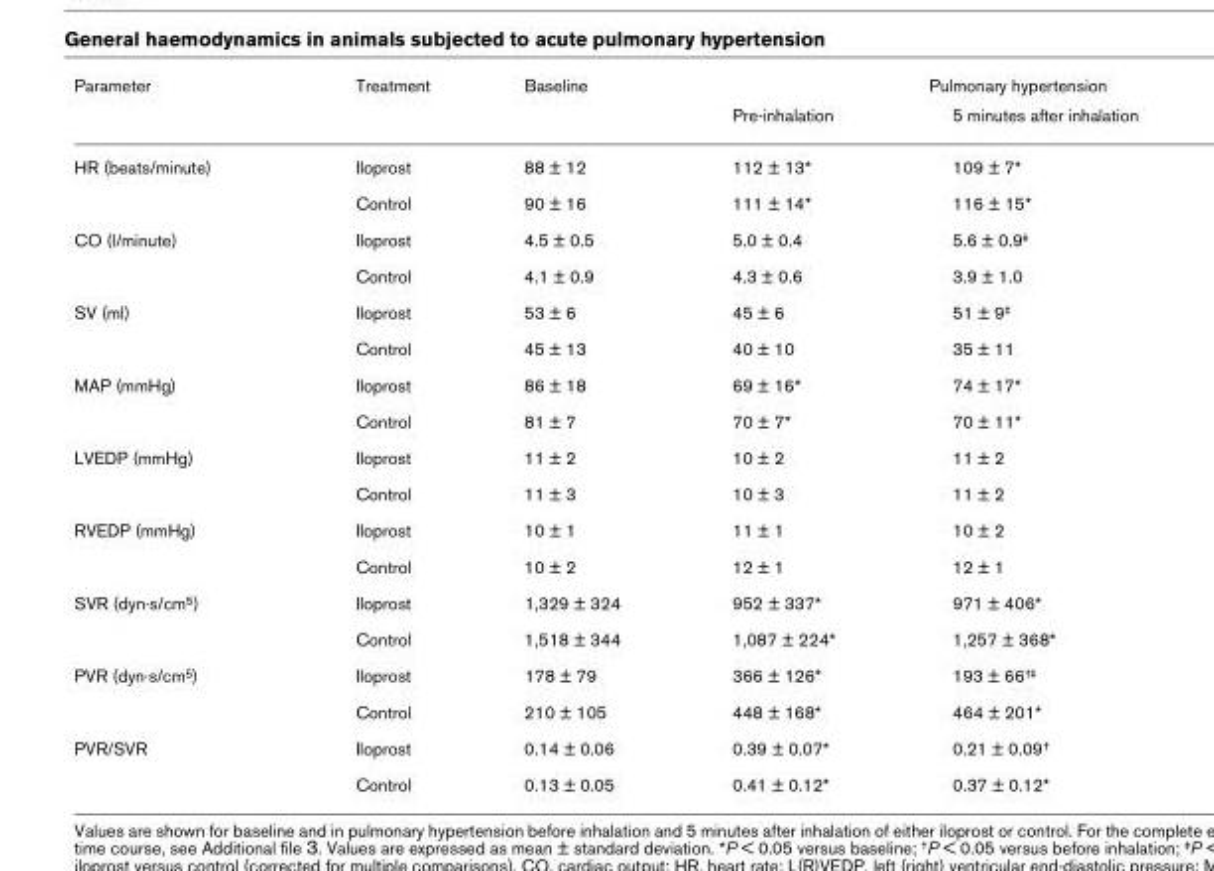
<table><thead><tr><td rowspan="2">Parameter</td><td rowspan="2">Treatment</td><td rowspan="2">Baseline</td><td colspan="2">Pulmonary hypertension</td></tr><tr><td>Pre-inhalation</td><td>5 minutes after inhalation</td></tr></thead><tbody><tr><td rowspan="2">HR (beats/minute)</td><td>Iloprost</td><td>88 ± 12</td><td>112 ± 13*</td><td>109 ± 7*</td></tr><tr><td>Control</td><td>90 ± 16</td><td>111 ± 14*</td><td>116 ± 15*</td></tr><tr><td rowspan="2">CO (l/minute)</td><td>Iloprost</td><td>4.5 ± 0.5</td><td>5.0 ± 0.4</td><td>5.6 ± 0.9<sup>‡</sup></td></tr><tr><td>Control</td><td>4.1 ± 0.9</td><td>4.3 ± 0.6</td><td>3.9 ± 1.0</td></tr><tr><td rowspan="2">SV (ml)</td><td>Iloprost</td><td>53 ± 6</td><td>45 ± 6</td><td>51 ± 9<sup>‡</sup></td></tr><tr><td>Control</td><td>45 ± 13</td><td>40 ± 10</td><td>35 ± 11</td></tr><tr><td rowspan="2">MAP (mmHg)</td><td>Iloprost</td><td>86 ± 18</td><td>69 ± 16*</td><td>74 ± 17*</td></tr><tr><td>Control</td><td>81 ± 7</td><td>70 ± 7*</td><td>70 ± 11*</td></tr><tr><td rowspan="2">LVEDP (mmHg)</td><td>Iloprost</td><td>11 ± 2</td><td>10 ± 2</td><td>11 ± 2</td></tr><tr><td>Control</td><td>11 ± 3</td><td>10 ± 3</td><td>11 ± 2</td></tr><tr><td rowspan="2">RVEDP (mmHg)</td><td>Iloprost</td><td>10 ± 1</td><td>11 ± 1</td><td>10 ± 2</td></tr><tr><td>Control</td><td>10 ± 2</td><td>12 ± 1</td><td>12 ± 1</td></tr><tr><td rowspan="2">SVR (dyn·s/cm<sup>5</sup>)</td><td>Iloprost</td><td>1,329 ± 324</td><td>952 ± 337*</td><td>971 ± 406*</td></tr><tr><td>Control</td><td>1,518 ± 344</td><td>1,087 ± 224*</td><td>1,257 ± 368*</td></tr><tr><td rowspan="2">PVR (dyn·s/cm<sup>5</sup>)</td><td>Iloprost</td><td>178 ± 79</td><td>366 ± 126*</td><td>193 ± 66<sup>†‡</sup></td></tr><tr><td>Control</td><td>210 ± 105</td><td>448 ± 168*</td><td>464 ± 201*</td></tr><tr><td rowspan="2">PVR/SVR</td><td>Iloprost</td><td>0.14 ± 0.06</td><td>0.39 ± 0.07*</td><td>0.21 ± 0.09<sup>†</sup></td></tr><tr><td>Control</td><td>0.13 ± 0.05</td><td>0.41 ± 0.12*</td><td>0.37 ± 0.12*</td></tr></tbody></table>